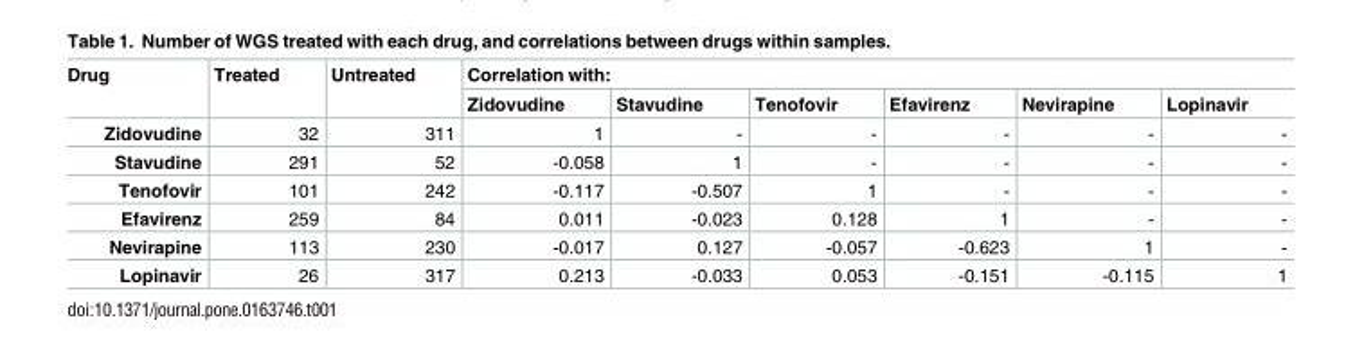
<table><thead><tr><td rowspan="2">Drug</td><td rowspan="2">Treated</td><td rowspan="2">Untreated</td><td colspan="6">Correlation with:</td></tr><tr><td>Zidovudine</td><td>Stavudine</td><td>Tenofovir</td><td>Efavirenz</td><td>Nevirapine</td><td>Lopinavir</td></tr></thead><tbody><tr><td>Zidovudine</td><td>32</td><td>311</td><td>1</td><td>-</td><td>-</td><td>-</td><td>-</td><td>-</td></tr><tr><td>Stavudine</td><td>291</td><td>52</td><td>-0.058</td><td>1</td><td>-</td><td>-</td><td>-</td><td>-</td></tr><tr><td>Tenofovir</td><td>101</td><td>242</td><td>-0.117</td><td>-0.507</td><td>1</td><td>-</td><td>-</td><td>-</td></tr><tr><td>Efavirenz</td><td>259</td><td>84</td><td>0.011</td><td>-0.023</td><td>0.128</td><td>1</td><td>-</td><td>-</td></tr><tr><td>Nevirapine</td><td>113</td><td>230</td><td>-0.017</td><td>0.127</td><td>-0.057</td><td>-0.623</td><td>1</td><td>-</td></tr><tr><td>Lopinavir</td><td>26</td><td>317</td><td>0.213</td><td>-0.033</td><td>0.053</td><td>-0.151</td><td>-0.115</td><td>1</td></tr></tbody></table>